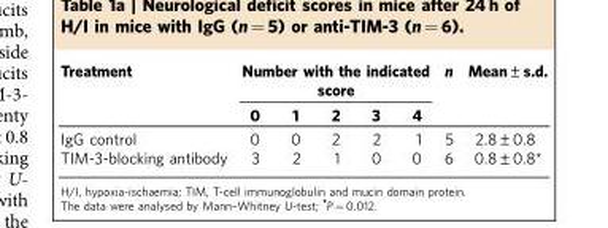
<table><thead><tr><td rowspan="2">Treatment</td><td colspan="5">Number with the indicated score</td><td rowspan="2">n</td><td rowspan="2">Mean±s.d.</td></tr><tr><td>0</td><td>1</td><td>2</td><td>3</td><td>4</td></tr></thead><tbody><tr><td>IgG control</td><td>0</td><td>0</td><td>2</td><td>2</td><td>1</td><td>5</td><td>2.8±0.8</td></tr><tr><td>TIM-3-blocking antibody</td><td>3</td><td>2</td><td>1</td><td>0</td><td>0</td><td>6</td><td>0.8±0.8*</td></tr></tbody></table>